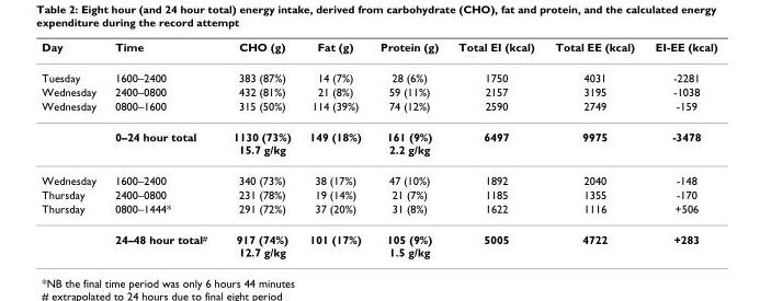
<table><thead><tr><td>Day</td><td>Time</td><td>CHO (g)</td><td>Fat (g)</td><td>Protein (g)</td><td>Total EI (kcal)</td><td>Total EE (kcal)</td><td>EI-EE (kcal)</td></tr></thead><tbody><tr><td>Tuesday</td><td>1600–2400</td><td>383 (87%)</td><td>14 (7%)</td><td>28 (6%)</td><td>1750</td><td>4031</td><td>-2281</td></tr><tr><td>Wednesday</td><td>2400–0800</td><td>432 (81%)</td><td>21 (8%)</td><td>59 (11%)</td><td>2157</td><td>3195</td><td>-1038</td></tr><tr><td rowspan="2">Wednesday</td><td>0800–1600</td><td>315 (50%)</td><td>114 (39%)</td><td>74 (12%)</td><td>2590</td><td>2749</td><td>-159</td></tr><tr><td>0–24 hour total</td><td>1130 (73%) 15.7 g/kg</td><td>149 (18%)</td><td>161 (9%) 2.2 g/kg</td><td>6497</td><td>9975</td><td>-3478</td></tr><tr><td>Wednesday</td><td>1600–2400</td><td>340 (73%)</td><td>38 (17%)</td><td>47 (10%)</td><td>1892</td><td>2040</td><td>-148</td></tr><tr><td>Thursday</td><td>2400–0800</td><td>231 (78%)</td><td>19 (14%)</td><td>21 (7%)</td><td>1185</td><td>1355</td><td>-170</td></tr><tr><td rowspan="2">Thursday</td><td>0800–1444*</td><td>291 (72%)</td><td>37 (20%)</td><td>31 (8%)</td><td>1622</td><td>1116</td><td>+506</td></tr><tr><td>24–48 hour total<sup>#</sup></td><td>917 (74%) 12.7 g/kg</td><td>101 (17%)</td><td>105 (9%) 1.5 g/kg</td><td>5005</td><td>4722</td><td>+283</td></tr></tbody></table>